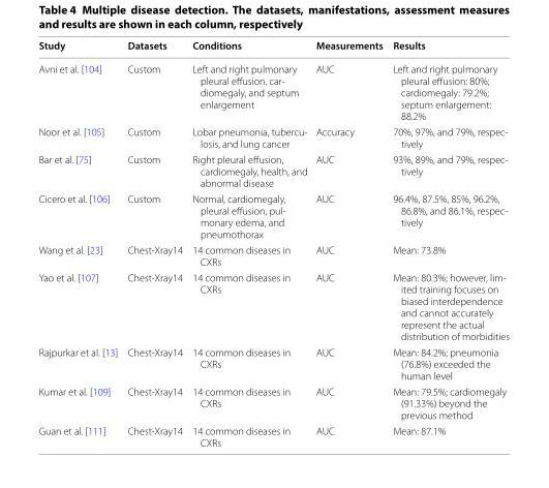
<table><thead><tr><td>Study</td><td>Datasets</td><td>Conditions</td><td>Measurements</td><td>Results</td></tr></thead><tbody><tr><td>Avni et al. [104]</td><td>Custom</td><td>Left and right pulmonary pleural effusion, car- diomegaly, and septum enlargement</td><td>AUC</td><td>Left and right pulmonary pleural effusion: 80%; cardiomegaly: 79.2%; septum enlargement: 88.2%</td></tr><tr><td>Noor et al. [105]</td><td>Custom</td><td>Lobar pneumonia, tubercu- losis, and lung cancer</td><td>Accuracy</td><td>70%, 97%, and 79%, respec- tively</td></tr><tr><td>Bar et al. [75]</td><td>Custom</td><td>Right pleural effusion, cardiomegaly, health, and abnormal disease</td><td>AUC</td><td>93%, 89%, and 79%, respec- tively</td></tr><tr><td>Cicero et al. [106]</td><td>Custom</td><td>Normal, cardiomegaly, pleural effusion, pul- monary edema, and pneumothorax</td><td>AUC</td><td>96.4%, 87.5%, 85%, 96.2%, 86.8%, and 86.1%, respec- tively</td></tr><tr><td>Wang et al. [23]</td><td>Chest-Xray14</td><td>14 common diseases in CXRs</td><td>AUC</td><td>Mean: 73.8%</td></tr><tr><td>Yao et al. [107]</td><td>Chest-Xray14</td><td>14 common diseases in CXRs</td><td>AUC</td><td>Mean: 80.3%; however, lim- ited training focuses on biased interdependence and cannot accurately represent the actual distribution of morbidities</td></tr><tr><td>Rajpurkar et al. [13]</td><td>Chest-Xray14</td><td>14 common diseases in CXRs</td><td>AUC</td><td>Mean: 84.2%; pneumonia (76.8%) exceeded the human level</td></tr><tr><td>Kumar et al. [109]</td><td>Chest-Xray14</td><td>14 common diseases in CXRs</td><td>AUC</td><td>Mean: 79.5%; cardiomegaly (91.33%) beyond the previous method</td></tr><tr><td>Guan et al. [111]</td><td>Chest-Xray14</td><td>14 common diseases in CXRs</td><td>AUC</td><td>Mean: 87.1%</td></tr></tbody></table>